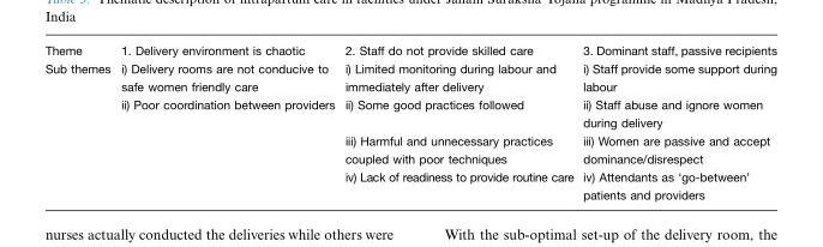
<table><tbody><tr><td>Theme</td><td>1. Delivery environment is chaotic</td><td>2. Staff do not provide skilled care</td><td>3. Dominant staff, passive recipients</td></tr><tr><td rowspan="4">Sub themes</td><td>i) Delivery rooms are not conducive to safe women friendly care</td><td>i) Limited monitoring during labour and immediately after delivery</td><td>i) Staff provide some support during labour</td></tr><tr><td>ii) Poor coordination between providers</td><td>ii) Some good practices followed</td><td>ii) Staff abuse and ignore women during delivery</td></tr><tr><td></td><td>iii) Harmful and unnecessary practices coupled with poor techniques</td><td>iii) Women are passive and accept dominance/disrespect</td></tr><tr><td></td><td>iv) Lack of readiness to provide routine care</td><td>iv) Attendants as ‘go-between’ patients and providers</td></tr></tbody></table>